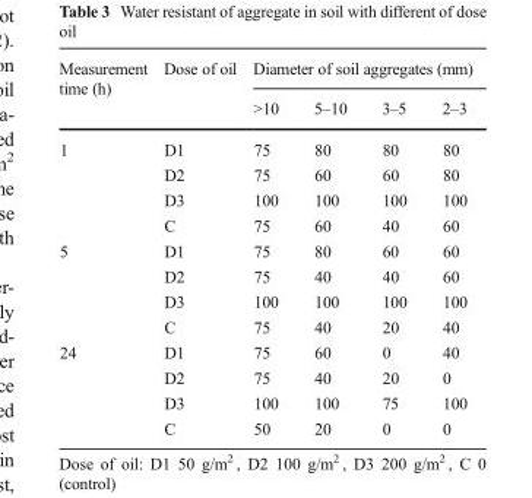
<table><thead><tr><td rowspan="2">Measurement time (h)</td><td rowspan="2">Dose of oil</td><td colspan="4">Diameter of soil aggregates (mm)</td></tr><tr><td>&gt;10</td><td>5–10</td><td>3–5</td><td>2–3</td></tr></thead><tbody><tr><td rowspan="4">1</td><td>D1</td><td>75</td><td>80</td><td>80</td><td>80</td></tr><tr><td>D2</td><td>75</td><td>60</td><td>60</td><td>80</td></tr><tr><td>D3</td><td>100</td><td>100</td><td>100</td><td>100</td></tr><tr><td>C</td><td>75</td><td>60</td><td>40</td><td>60</td></tr><tr><td rowspan="4">5</td><td>D1</td><td>75</td><td>80</td><td>60</td><td>60</td></tr><tr><td>D2</td><td>75</td><td>40</td><td>40</td><td>60</td></tr><tr><td>D3</td><td>100</td><td>100</td><td>100</td><td>100</td></tr><tr><td>C</td><td>75</td><td>40</td><td>20</td><td>40</td></tr><tr><td rowspan="4">24</td><td>D1</td><td>75</td><td>60</td><td>0</td><td>40</td></tr><tr><td>D2</td><td>75</td><td>40</td><td>20</td><td>0</td></tr><tr><td>D3</td><td>100</td><td>100</td><td>75</td><td>100</td></tr><tr><td>C</td><td>50</td><td>20</td><td>0</td><td>0</td></tr></tbody></table>